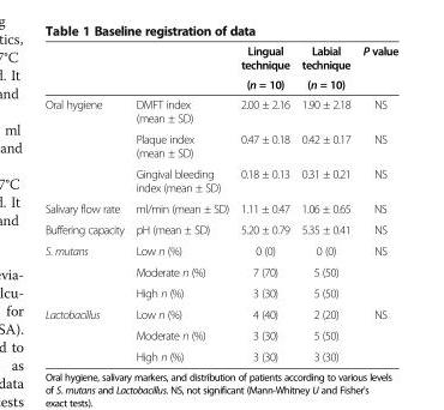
<table><thead><tr><td rowspan="2"></td><td rowspan="2"></td><td rowspan="2">Lingual technique (n = 10)</td><td rowspan="2">Labial technique (n = 10)</td><td rowspan="2">P value</td></tr><tr></tr></thead><tbody><tr><td rowspan="3">Oral hygiene</td><td>DMFT index (mean ± SD)</td><td>2.00 ± 2.16</td><td>1.90 ± 2.18</td><td>NS</td></tr><tr><td>Plaque index (mean ± SD)</td><td>0.47 ± 0.18</td><td>0.42 ± 0.17</td><td>NS</td></tr><tr><td>Gingival bleeding index (mean ± SD)</td><td>0.18 ± 0.13</td><td>0.31 ± 0.21</td><td>NS</td></tr><tr><td>Salivary flow rate</td><td>ml/min (mean ± SD)</td><td>1.11 ± 0.47</td><td>1.06 ± 0.65</td><td>NS</td></tr><tr><td>Buffering capacity</td><td>pH (mean ± SD)</td><td>5.20 ± 0.79</td><td>5.35 ± 0.41</td><td>NS</td></tr><tr><td rowspan="3">S. mutans</td><td>Low n (%)</td><td>0 (0)</td><td>0 (0)</td><td rowspan="3">NS</td></tr><tr><td>Moderate n (%)</td><td>7 (70)</td><td>5 (50)</td></tr><tr><td>High n (%)</td><td>3 (30)</td><td>5 (50)</td></tr><tr><td rowspan="3">Lactobacillus</td><td>Low n (%)</td><td>4 (40)</td><td>2 (20)</td><td rowspan="2">NS</td></tr><tr><td>Moderate n (%)</td><td>3 (30)</td><td>5 (50)</td></tr><tr><td>High n (%)</td><td>3 (30)</td><td>3 (30)</td><td></td></tr></tbody></table>